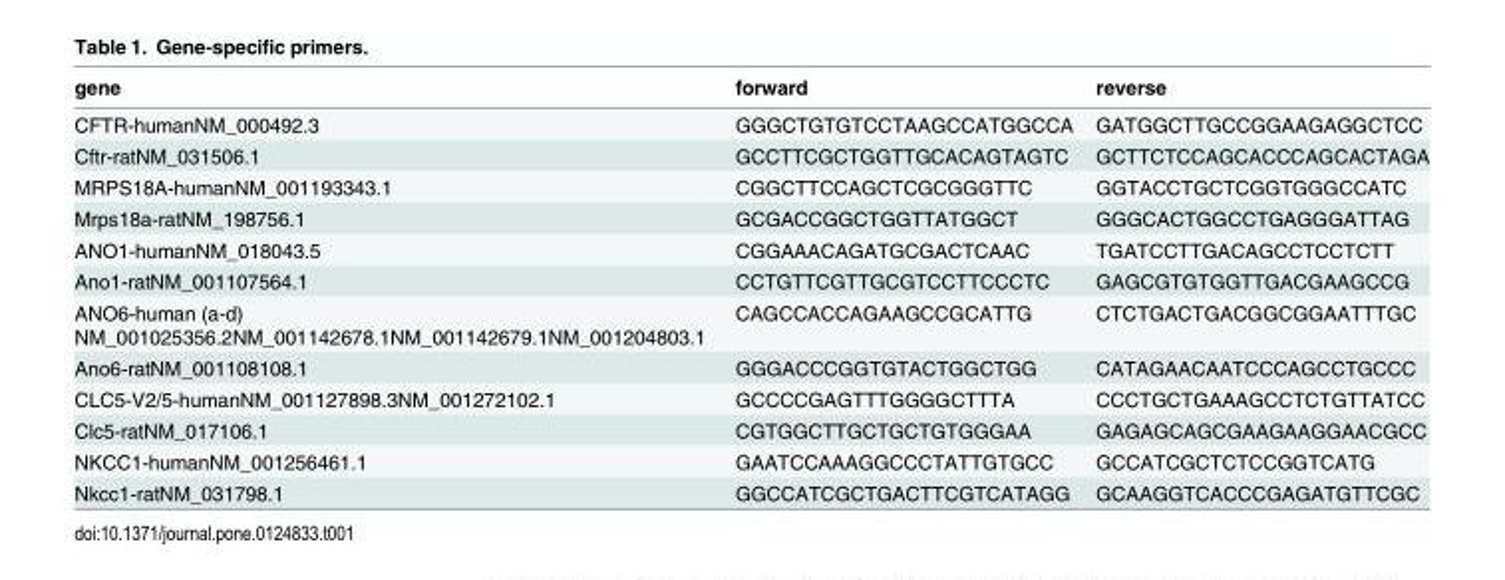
<table><thead><tr><td>gene</td><td>forward</td><td>reverse</td></tr></thead><tbody><tr><td>CFTR-humanNM_000492.3</td><td>GGGCTGTGTCCTAAGCCATGGCCA</td><td>GATGGCTTGCCGGAAGAGGCTCC</td></tr><tr><td>Cftr-ratNM_031506.1</td><td>GCCTTCGCTGGTTGCACAGTAGTC</td><td>GCTTCTCCAGCACCCAGCACTAGA</td></tr><tr><td>MRPS18A-humanNM_001193343.1</td><td>CGGCTTCCAGCTCGCGGGTTC</td><td>GGTACCTGCTCGGTGGGCCATC</td></tr><tr><td>Mrps18a-ratNM_198756.1</td><td>GCGACCGGCTGGTTATGGCT</td><td>GGGCACTGGCCTGAGGGATTAG</td></tr><tr><td>ANO1-humanNM_018043.5</td><td>CGGAAACAGATGCGACTCAAC</td><td>TGATCCTTGACAGCCTCCTCTT</td></tr><tr><td>Ano1-ratNM_001107564.1</td><td>CCTGTTCGTTGCGTCCTTCCCTC</td><td>GAGCGTGTGGTTGACGAAGCCG</td></tr><tr><td>ANO6-human (a-d) NM_001025356.2NM_001142678.1NM_001142679.1NM_001204803.1</td><td>CAGCCACCAGAAGCCGCATTG</td><td>CTCTGACTGACGGCGGAATTTGC</td></tr><tr><td>Ano6-ratNM_001108108.1</td><td>GGGACCCGGTGTACTGGCTGG</td><td>CATAGAACAATCCCAGCCTGCCC</td></tr><tr><td>CLC5-V2/5-humanNM_001127898.3NM_001272102.1</td><td>GCCCCGAGTTTGGGGCTTTA</td><td>CCCTGCTGAAAGCCTCTGTTATCC</td></tr><tr><td>Clc5-ratNM_017106.1</td><td>CGTGGCTTGCTGCTGTGGGAA</td><td>GAGAGCAGCGAAGAAGGAACGCC</td></tr><tr><td>NKCC1-humanNM_001256461.1</td><td>GAATCCAAAGGCCCTATTGTGCC</td><td>GCCATCGCTCTCCGGTCATG</td></tr><tr><td>Nkcc1-ratNM_031798.1</td><td>GGCCATCGCTGACTTCGTCATAGG</td><td>GCAAGGTCACCCGAGATGTTCGC</td></tr></tbody></table>